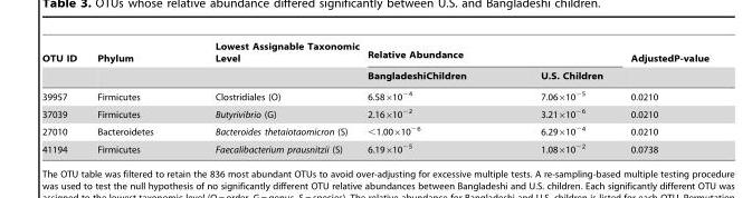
<table><thead><tr><td rowspan="2">OTU ID</td><td rowspan="2">Phylum</td><td rowspan="2">Lowest Assignable Taxonomic Level</td><td colspan="2">Relative Abundance</td><td rowspan="2">AdjustedP-value</td></tr><tr><td>BangladeshiChildren</td><td>U.S. Children</td></tr></thead><tbody><tr><td>39957</td><td>Firmicutes</td><td>Clostridiales (O)</td><td>6.58×10<sup>−4</sup></td><td>7.06×10<sup>−5</sup></td><td>0.0210</td></tr><tr><td>37039</td><td>Firmicutes</td><td>Butyrivibrio (G)</td><td>2.16×10<sup>−2</sup></td><td>3.21×10<sup>−6</sup></td><td>0.0210</td></tr><tr><td>27010</td><td>Bacteroidetes</td><td>Bacteroides thetaiotaomicron (S)</td><td>&lt;1.00×10<sup>−6</sup></td><td>6.29×10<sup>−4</sup></td><td>0.0210</td></tr><tr><td>41194</td><td>Firmicutes</td><td>Faecalibacterium prausnitzii (S)</td><td>6.19×10<sup>−5</sup></td><td>1.08×10<sup>−2</sup></td><td>0.0738</td></tr></tbody></table>